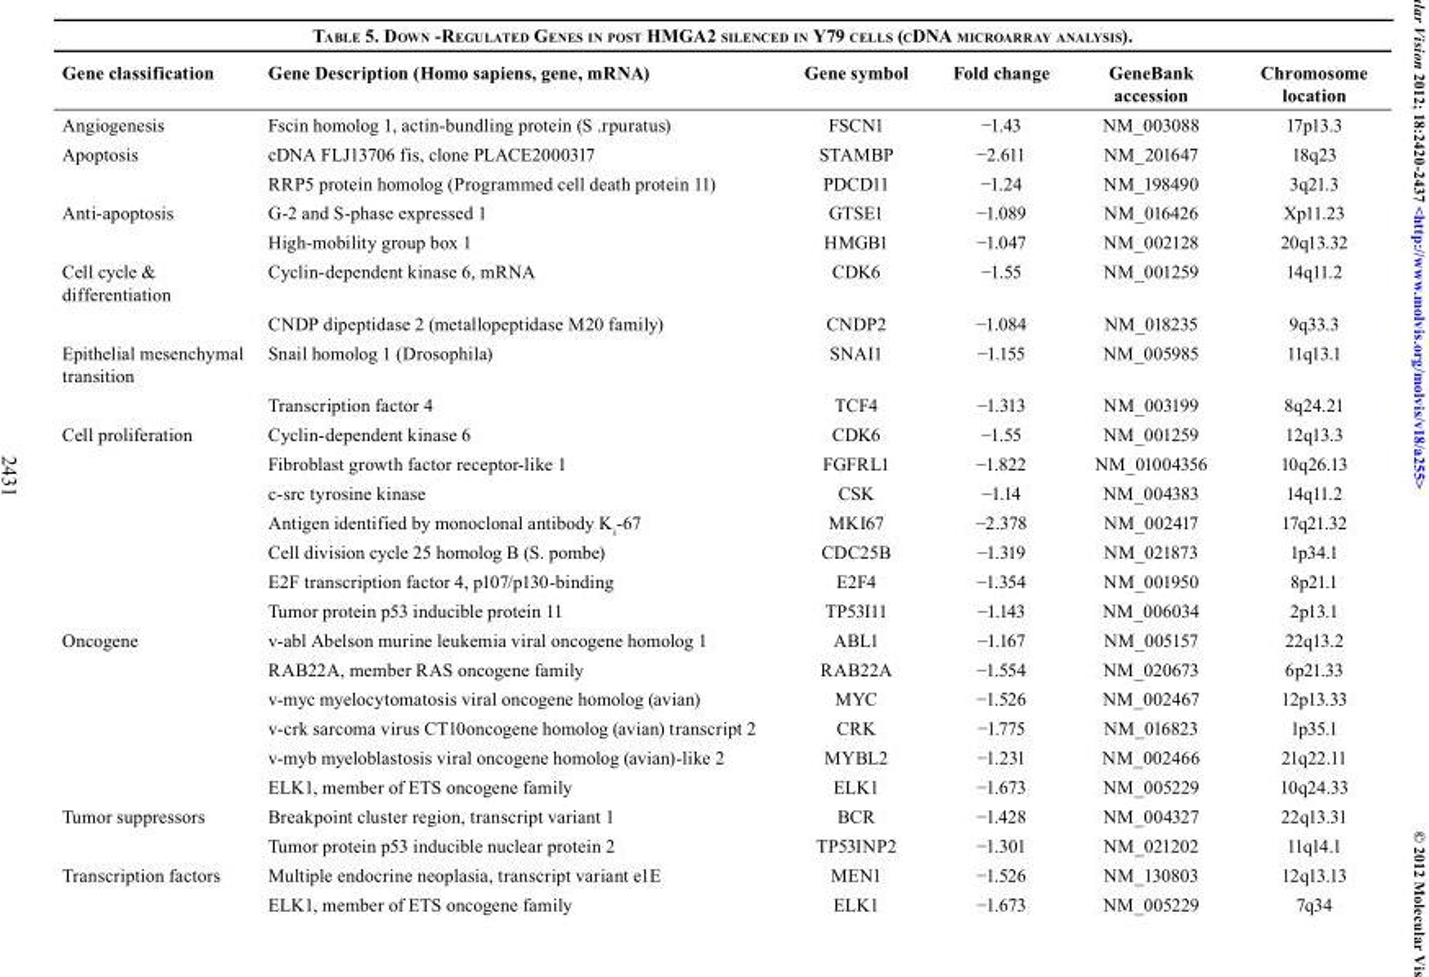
<table><thead><tr><td>Gene classification</td><td>Gene Description (Homo sapiens, gene, mRNA)</td><td>Gene symbol</td><td>Fold change</td><td>GeneBank accession</td><td>Chromosome location</td></tr></thead><tbody><tr><td>Angiogenesis</td><td>Fscin homolog 1, actin-bundling protein (S .rpuratus)</td><td>FSCN1</td><td>−1.43</td><td>NM_003088</td><td>17p13.3</td></tr><tr><td rowspan="2">Apoptosis</td><td>cDNA FLJ13706 fis, clone PLACE2000317</td><td>STAMBP</td><td>−2.611</td><td>NM_201647</td><td>18q23</td></tr><tr><td>RRP5 protein homolog (Programmed cell death protein 11)</td><td>PDCD11</td><td>−1.24</td><td>NM_198490</td><td>3q21.3</td></tr><tr><td rowspan="2">Anti-apoptosis</td><td>G-2 and S-phase expressed 1</td><td>GTSE1</td><td>−1.089</td><td>NM_016426</td><td>Xp11.23</td></tr><tr><td>High-mobility group box 1</td><td>HMGB1</td><td>−1.047</td><td>NM_002128</td><td>20q13.32</td></tr><tr><td rowspan="2">Cell cycle &amp; differentiation</td><td>Cyclin-dependent kinase 6, mRNA</td><td>CDK6</td><td>−1.55</td><td>NM_001259</td><td>14q11.2</td></tr><tr><td>CNDP dipeptidase 2 (metallopeptidase M20 family)</td><td>CNDP2</td><td>−1.084</td><td>NM_018235</td><td>9q33.3</td></tr><tr><td rowspan="2">Epithelial mesenchymal transition</td><td>Snail homolog 1 (Drosophila)</td><td>SNAI1</td><td>−1.155</td><td>NM_005985</td><td>11q13.1</td></tr><tr><td>Transcription factor 4</td><td>TCF4</td><td>−1.313</td><td>NM_003199</td><td>8q24.21</td></tr><tr><td rowspan="7">Cell proliferation</td><td>Cyclin-dependent kinase 6</td><td>CDK6</td><td>−1.55</td><td>NM_001259</td><td>12q13.3</td></tr><tr><td>Fibroblast growth factor receptor-like 1</td><td>FGFRL1</td><td>−1.822</td><td>NM_01004356</td><td>10q26.13</td></tr><tr><td>c-src tyrosine kinase</td><td>CSK</td><td>−1.14</td><td>NM_004383</td><td>14q11.2</td></tr><tr><td>Antigen identified by monoclonal antibody K<sub>i</sub>-67</td><td>MKI67</td><td>−2.378</td><td>NM_002417</td><td>17q21.32</td></tr><tr><td>Cell division cycle 25 homolog B (S. pombe)</td><td>CDC25B</td><td>−1.319</td><td>NM_021873</td><td>1p34.1</td></tr><tr><td>E2F transcription factor 4, p107/p130-binding</td><td>E2F4</td><td>−1.354</td><td>NM_001950</td><td>8p21.1</td></tr><tr><td>Tumor protein p53 inducible protein 11</td><td>TP53I11</td><td>−1.143</td><td>NM_006034</td><td>2p13.1</td></tr><tr><td rowspan="6">Oncogene</td><td>v-abl Abelson murine leukemia viral oncogene homolog 1</td><td>ABL1</td><td>−1.167</td><td>NM_005157</td><td>22q13.2</td></tr><tr><td>RAB22A, member RAS oncogene family</td><td>RAB22A</td><td>−1.554</td><td>NM_020673</td><td>6p21.33</td></tr><tr><td>v-myc myelocytomatosis viral oncogene homolog (avian)</td><td>MYC</td><td>−1.526</td><td>NM_002467</td><td>12p13.33</td></tr><tr><td>v-crk sarcoma virus CT10oncogene homolog (avian) transcript 2</td><td>CRK</td><td>−1.775</td><td>NM_016823</td><td>1p35.1</td></tr><tr><td>v-myb myeloblastosis viral oncogene homolog (avian)-like 2</td><td>MYBL2</td><td>−1.231</td><td>NM_002466</td><td>21q22.11</td></tr><tr><td>ELK1, member of ETS oncogene family</td><td>ELK1</td><td>−1.673</td><td>NM_005229</td><td>10q24.33</td></tr><tr><td rowspan="2">Tumor suppressors</td><td>Breakpoint cluster region, transcript variant 1</td><td>BCR</td><td>−1.428</td><td>NM_004327</td><td>22q13.31</td></tr><tr><td>Tumor protein p53 inducible nuclear protein 2</td><td>TP53INP2</td><td>−1.301</td><td>NM_021202</td><td>11q14.1</td></tr><tr><td rowspan="2">Transcription factors</td><td>Multiple endocrine neoplasia, transcript variant e1E</td><td>MEN1</td><td>−1.526</td><td>NM_130803</td><td>12q13.13</td></tr><tr><td>ELK1, member of ETS oncogene family</td><td>ELK1</td><td>−1.673</td><td>NM_005229</td><td>7q34</td></tr></tbody></table>